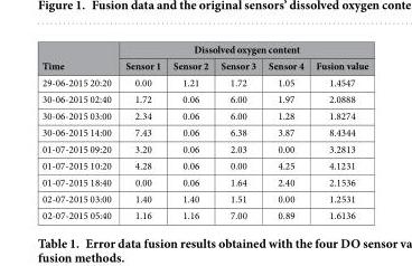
<table><thead><tr><td rowspan="2">Time</td><td colspan="5">Dissolved oxygen content</td></tr><tr><td>Sensor 1</td><td>Sensor 2</td><td>Sensor 3</td><td>Sensor 4</td><td>Fusion value</td></tr></thead><tbody><tr><td>29-06-2015 20:20</td><td>0.00</td><td>1.21</td><td>1.72</td><td>1.05</td><td>1.4547</td></tr><tr><td>30-06-2015 02:40</td><td>1.72</td><td>0.06</td><td>6.00</td><td>1.97</td><td>2.0888</td></tr><tr><td>30-06-2015 03:00</td><td>2.34</td><td>0.06</td><td>6.00</td><td>1.28</td><td>1.8274</td></tr><tr><td>30-06-2015 14:00</td><td>7.43</td><td>0.06</td><td>6.38</td><td>3.87</td><td>8.4344</td></tr><tr><td>01-07-2015 09:20</td><td>3.20</td><td>0.06</td><td>2.03</td><td>0.00</td><td>3.2813</td></tr><tr><td>01-07-2015 10:20</td><td>4.28</td><td>0.06</td><td>0.00</td><td>4.25</td><td>4.1231</td></tr><tr><td>01-07-2015 18:40</td><td>0.00</td><td>0.06</td><td>1.64</td><td>2.40</td><td>2.1536</td></tr><tr><td>02-07-2015 03:00</td><td>1.40</td><td>1.40</td><td>1.51</td><td>0.00</td><td>1.2531</td></tr><tr><td>02-07-2015 05:40</td><td>1.16</td><td>1.16</td><td>7.00</td><td>0.89</td><td>1.6136</td></tr></tbody></table>